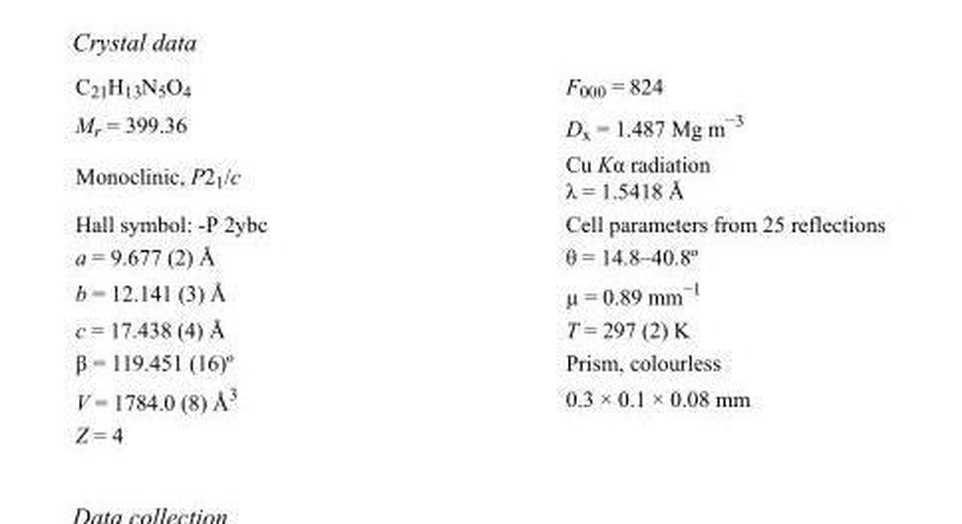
<table><tbody><tr><td>C<sub>21</sub>H<sub>13</sub>N<sub>5</sub>O<sub>4</sub></td><td>F<sub>000</sub> = 824</td></tr><tr><td>M<sub>r</sub> = 399.36</td><td>D<sub>x</sub> = 1.487 Mg m<sup>−3</sup></td></tr><tr><td>Monoclinic, P2<sub>1</sub>/c</td><td>Cu Kα radiation λ = 1.5418 Å</td></tr><tr><td>Hall symbol: -P 2ybc</td><td>Cell parameters from 25 reflections</td></tr><tr><td>a = 9.677 (2) Å</td><td>θ = 14.8–40.8º</td></tr><tr><td>b = 12.141 (3) Å</td><td>µ = 0.89 mm<sup>−1</sup></td></tr><tr><td>c = 17.438 (4) Å</td><td>T = 297 (2) K</td></tr><tr><td>β = 119.451 (16)º</td><td>Prism, colourless</td></tr><tr><td>V = 1784.0 (8) Å<sup>3</sup></td><td>0.3 × 0.1 × 0.08 mm</td></tr><tr><td>Z = 4</td><td></td></tr></tbody></table>